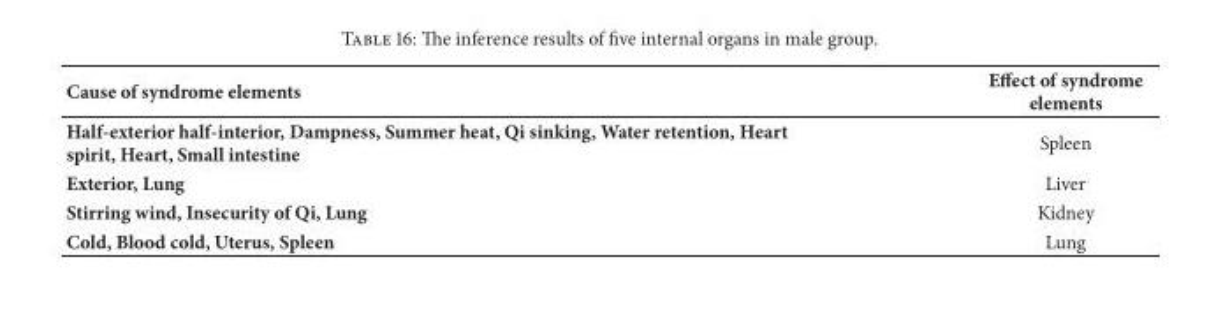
<table><thead><tr><td>Cause of syndrome elements</td><td>Effect of syndrome elements</td></tr></thead><tbody><tr><td>Half-exterior half-interior, Dampness, Summer heat, Qi sinking, Water retention, Heart spirit, Heart, Small intestine</td><td>Spleen</td></tr><tr><td>Exterior, Lung</td><td>Liver</td></tr><tr><td>Stirring wind, Insecurity of Qi, Lung</td><td>Kidney</td></tr><tr><td>Cold, Blood cold, Uterus, Spleen</td><td>Lung</td></tr></tbody></table>